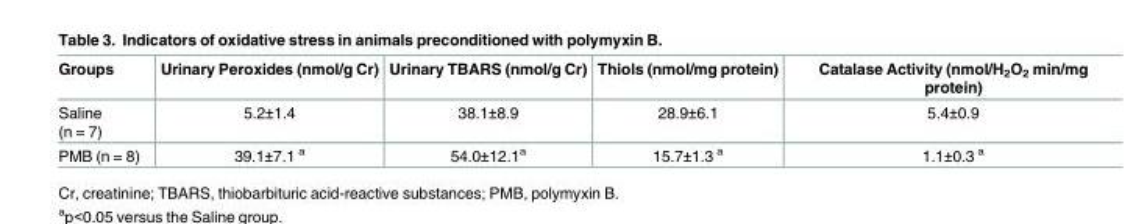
<table><thead><tr><td>Groups</td><td>Urinary Peroxides (nmol/g Cr)</td><td>Urinary TBARS (nmol/g Cr)</td><td>Thiols (nmol/mg protein)</td><td>Catalase Activity (nmol/H<sub>2</sub>O<sub>2</sub> min/mg protein)</td></tr></thead><tbody><tr><td>Saline (n = 7)</td><td>5.2±1.4</td><td>38.1±8.9</td><td>28.9±6.1</td><td>5.4±0.9</td></tr><tr><td>PMB (n = 8)</td><td>39.1±7.1 <sup>a</sup></td><td>54.0±12.1<sup>a</sup></td><td>15.7±1.3 <sup>a</sup></td><td>1.1±0.3 <sup>a</sup></td></tr></tbody></table>